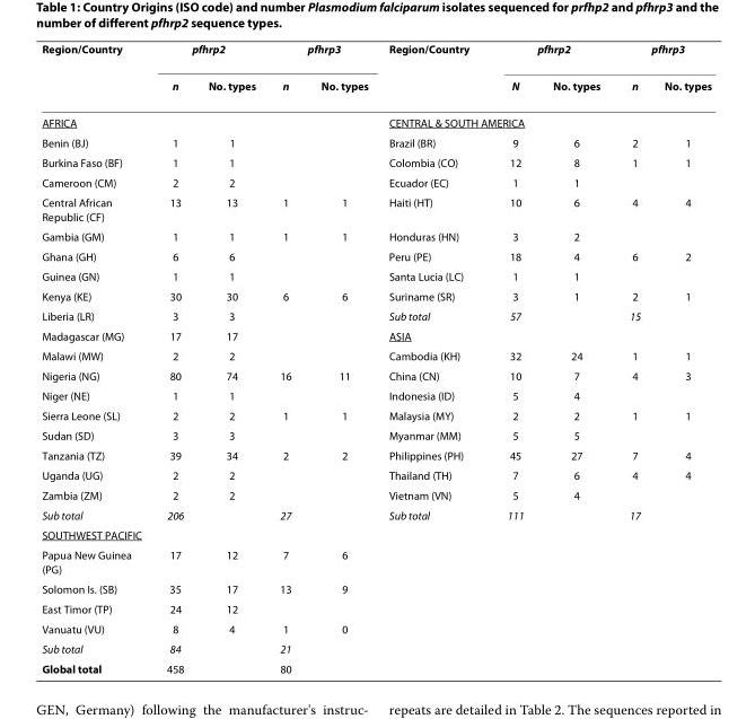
<table><thead><tr><td rowspan="2">Region/Country</td><td colspan="2">pfhrp2</td><td colspan="2">pfhrp3</td><td rowspan="2">Region/Country</td><td colspan="2">pfhrp2</td><td colspan="2">pfhrp3</td></tr><tr><td>n</td><td>No. types</td><td>n</td><td>No. types</td><td>N</td><td>No. types</td><td>n</td><td>No. types</td></tr></thead><tbody><tr><td colspan="5">AFRICA</td><td colspan="5">CENTRAL &amp; SOUTH AMERICA</td></tr><tr><td>Benin (BJ)</td><td>1</td><td>1</td><td></td><td></td><td>Brazil (BR)</td><td>9</td><td>6</td><td>2</td><td>1</td></tr><tr><td>Burkina Faso (BF)</td><td>1</td><td>1</td><td></td><td></td><td>Colombia (CO)</td><td>12</td><td>8</td><td>1</td><td>1</td></tr><tr><td>Cameroon (CM)</td><td>2</td><td>2</td><td></td><td></td><td>Ecuador (EC)</td><td>1</td><td>1</td><td></td><td></td></tr><tr><td>Central African Republic (CF)</td><td>13</td><td>13</td><td>1</td><td>1</td><td>Haiti (HT)</td><td>10</td><td>6</td><td>4</td><td>4</td></tr><tr><td>Gambia (GM)</td><td>1</td><td>1</td><td>1</td><td>1</td><td>Honduras (HN)</td><td>3</td><td>2</td><td></td><td></td></tr><tr><td>Ghana (GH)</td><td>6</td><td>6</td><td></td><td></td><td>Peru (PE)</td><td>18</td><td>4</td><td>6</td><td>2</td></tr><tr><td>Guinea (GN)</td><td>1</td><td>1</td><td></td><td></td><td>Santa Lucia (LC)</td><td>1</td><td>1</td><td></td><td></td></tr><tr><td>Kenya (KE)</td><td>30</td><td>30</td><td>6</td><td>6</td><td>Suriname (SR)</td><td>3</td><td>1</td><td>2</td><td>1</td></tr><tr><td>Liberia (LR)</td><td>3</td><td>3</td><td></td><td></td><td>Sub total</td><td>57</td><td></td><td>15</td><td></td></tr><tr><td>Madagascar (MG)</td><td>17</td><td>17</td><td></td><td></td><td colspan="5">ASIA</td></tr><tr><td>Malawi (MW)</td><td>2</td><td>2</td><td></td><td></td><td>Cambodia (KH)</td><td>32</td><td>24</td><td>1</td><td>1</td></tr><tr><td>Nigeria (NG)</td><td>80</td><td>74</td><td>16</td><td>11</td><td>China (CN)</td><td>10</td><td>7</td><td>4</td><td>3</td></tr><tr><td>Niger (NE)</td><td>1</td><td>1</td><td></td><td></td><td>Indonesia (ID)</td><td>5</td><td>4</td><td></td><td></td></tr><tr><td>Sierra Leone (SL)</td><td>2</td><td>2</td><td>1</td><td>1</td><td>Malaysia (MY)</td><td>2</td><td>2</td><td>1</td><td>1</td></tr><tr><td>Sudan (SD)</td><td>3</td><td>3</td><td></td><td></td><td>Myanmar (MM)</td><td>5</td><td>5</td><td></td><td></td></tr><tr><td>Tanzania (TZ)</td><td>39</td><td>34</td><td>2</td><td>2</td><td>Philippines (PH)</td><td>45</td><td>27</td><td>7</td><td>4</td></tr><tr><td>Uganda (UG)</td><td>2</td><td>2</td><td></td><td></td><td>Thailand (TH)</td><td>7</td><td>6</td><td>4</td><td>4</td></tr><tr><td>Zambia (ZM)</td><td>2</td><td>2</td><td></td><td></td><td>Vietnam (VN)</td><td>5</td><td>4</td><td></td><td></td></tr><tr><td>Sub total</td><td>206</td><td></td><td>27</td><td></td><td>Sub total</td><td>111</td><td></td><td>17</td><td></td></tr><tr><td colspan="10">SOUTHWEST PACIFIC</td></tr><tr><td>Papua New Guinea (PG)</td><td>17</td><td>12</td><td>7</td><td>6</td><td></td><td></td><td></td><td></td><td></td></tr><tr><td>Solomon Is. (SB)</td><td>35</td><td>17</td><td>13</td><td>9</td><td></td><td></td><td></td><td></td><td></td></tr><tr><td>East Timor (TP)</td><td>24</td><td>12</td><td></td><td></td><td></td><td></td><td></td><td></td><td></td></tr><tr><td>Vanuatu (VU)</td><td>8</td><td>4</td><td>1</td><td>0</td><td></td><td></td><td></td><td></td><td></td></tr><tr><td>Sub total</td><td>84</td><td></td><td>21</td><td></td><td></td><td></td><td></td><td></td><td></td></tr><tr><td>Global total</td><td>458</td><td></td><td>80</td><td></td><td></td><td></td><td></td><td></td><td></td></tr></tbody></table>